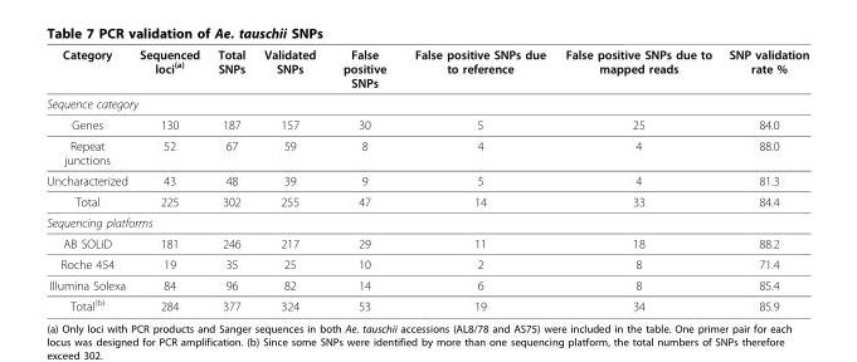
<table><thead><tr><td>Category</td><td>Sequenced loci<sup>(a)</sup></td><td>Total SNPs</td><td>Validated SNPs</td><td>False positive SNPs</td><td>False positive SNPs due to reference</td><td>False positive SNPs due to mapped reads</td><td>SNP validation rate %</td></tr></thead><tbody><tr><td colspan="8">Sequence category</td></tr><tr><td>Genes</td><td>130</td><td>187</td><td>157</td><td>30</td><td>5</td><td>25</td><td>84.0</td></tr><tr><td>Repeat junctions</td><td>52</td><td>67</td><td>59</td><td>8</td><td>4</td><td>4</td><td>88.0</td></tr><tr><td>Uncharacterized</td><td>43</td><td>48</td><td>39</td><td>9</td><td>5</td><td>4</td><td>81.3</td></tr><tr><td>Total</td><td>225</td><td>302</td><td>255</td><td>47</td><td>14</td><td>33</td><td>84.4</td></tr><tr><td colspan="8">Sequencing platforms</td></tr><tr><td>AB SOLiD</td><td>181</td><td>246</td><td>217</td><td>29</td><td>11</td><td>18</td><td>88.2</td></tr><tr><td>Roche 454</td><td>19</td><td>35</td><td>25</td><td>10</td><td>2</td><td>8</td><td>71.4</td></tr><tr><td>Illumina Solexa</td><td>84</td><td>96</td><td>82</td><td>14</td><td>6</td><td>8</td><td>85.4</td></tr><tr><td>Total<sup>(b)</sup></td><td>284</td><td>377</td><td>324</td><td>53</td><td>19</td><td>34</td><td>85.9</td></tr></tbody></table>